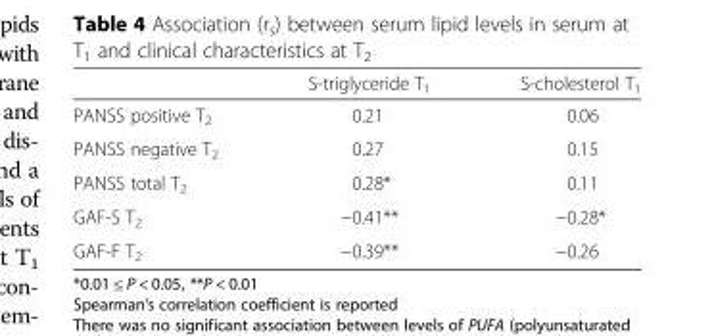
<table><thead><tr><td></td><td>S-triglyceride T<sub>1</sub></td><td>S-cholesterol T<sub>1</sub></td></tr></thead><tbody><tr><td>PANSS positive T<sub>2</sub></td><td>0.21</td><td>0.06</td></tr><tr><td>PANSS negative T<sub>2</sub></td><td>0.27</td><td>0.15</td></tr><tr><td>PANSS total T<sub>2</sub></td><td>0.28*</td><td>0.11</td></tr><tr><td>GAF-S T<sub>2</sub></td><td>−0.41**</td><td>−0.28*</td></tr><tr><td>GAF-F T<sub>2</sub></td><td>−0.39**</td><td>−0.26</td></tr></tbody></table>